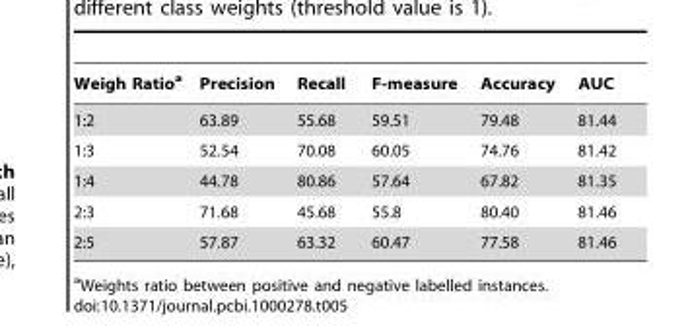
<table><thead><tr><td>Weigh Ratio<sup>a</sup></td><td>Precision</td><td>Recall</td><td>F-measure</td><td>Accuracy</td><td>AUC</td></tr></thead><tbody><tr><td>1:2</td><td>63.89</td><td>55.68</td><td>59.51</td><td>79.48</td><td>81.44</td></tr><tr><td>1:3</td><td>52.54</td><td>70.08</td><td>60.05</td><td>74.76</td><td>81.42</td></tr><tr><td>1:4</td><td>44.78</td><td>80.86</td><td>57.64</td><td>67.82</td><td>81.35</td></tr><tr><td>2:3</td><td>71.68</td><td>45.68</td><td>55.8</td><td>80.40</td><td>81.46</td></tr><tr><td>2:5</td><td>57.87</td><td>63.32</td><td>60.47</td><td>77.58</td><td>81.46</td></tr></tbody></table>